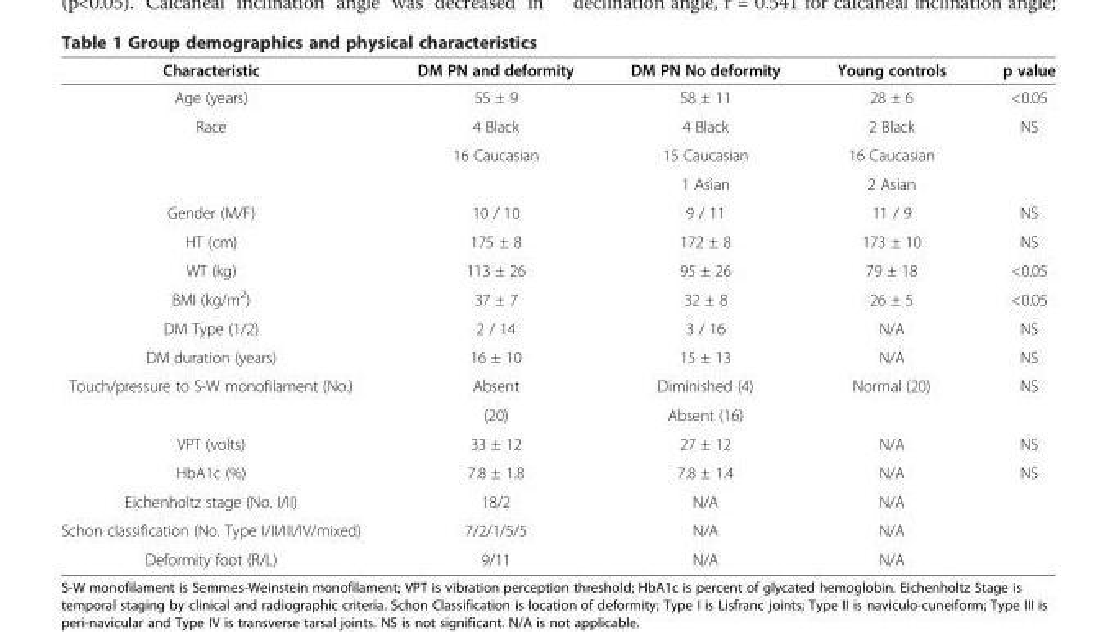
<table><thead><tr><td>Characteristic</td><td>DM PN and deformity</td><td>DM PN No deformity</td><td>Young controls</td><td>p value</td></tr></thead><tbody><tr><td>Age (years)</td><td>55 ± 9</td><td>58 ± 11</td><td>28 ± 6</td><td>&lt;0.05</td></tr><tr><td rowspan="3">Race</td><td>4 Black</td><td>4 Black</td><td>2 Black</td><td rowspan="3">NS</td></tr><tr><td rowspan="2">16 Caucasian</td><td>15 Caucasian</td><td>16 Caucasian</td></tr><tr><td>1 Asian</td><td>2 Asian</td></tr><tr><td>Gender (M/F)</td><td>10 / 10</td><td>9 / 11</td><td>11 / 9</td><td>NS</td></tr><tr><td>HT (cm)</td><td>175 ± 8</td><td>172 ± 8</td><td>173 ± 10</td><td>NS</td></tr><tr><td>WT (kg)</td><td>113 ± 26</td><td>95 ± 26</td><td>79 ± 18</td><td>&lt;0.05</td></tr><tr><td>BMI (kg/m<sup>2</sup>)</td><td>37 ± 7</td><td>32 ± 8</td><td>26 ± 5</td><td>&lt;0.05</td></tr><tr><td>DM Type (1/2)</td><td>2 / 14</td><td>3 / 16</td><td>N/A</td><td>NS</td></tr><tr><td>DM duration (years)</td><td>16 ± 10</td><td>15 ± 13</td><td>N/A</td><td>NS</td></tr><tr><td rowspan="2">Touch/pressure to S-W monofilament (No.)</td><td>Absent</td><td>Diminished (4)</td><td rowspan="2">Normal (20)</td><td rowspan="2">NS</td></tr><tr><td>(20)</td><td>Absent (16)</td></tr><tr><td>VPT (volts)</td><td>33 ± 12</td><td>27 ± 12</td><td>N/A</td><td>NS</td></tr><tr><td>HbA1c (%)</td><td>7.8 ± 1.8</td><td>7.8 ± 1.4</td><td>N/A</td><td>NS</td></tr><tr><td>Eichenholtz stage (No. I/II)</td><td>18/2</td><td>N/A</td><td>N/A</td><td></td></tr><tr><td>Schon classification (No. Type I/II/III/IV/mixed)</td><td>7/2/1/5/5</td><td>N/A</td><td>N/A</td><td></td></tr><tr><td>Deformity foot (R/L)</td><td>9/11</td><td>N/A</td><td>N/A</td><td></td></tr></tbody></table>